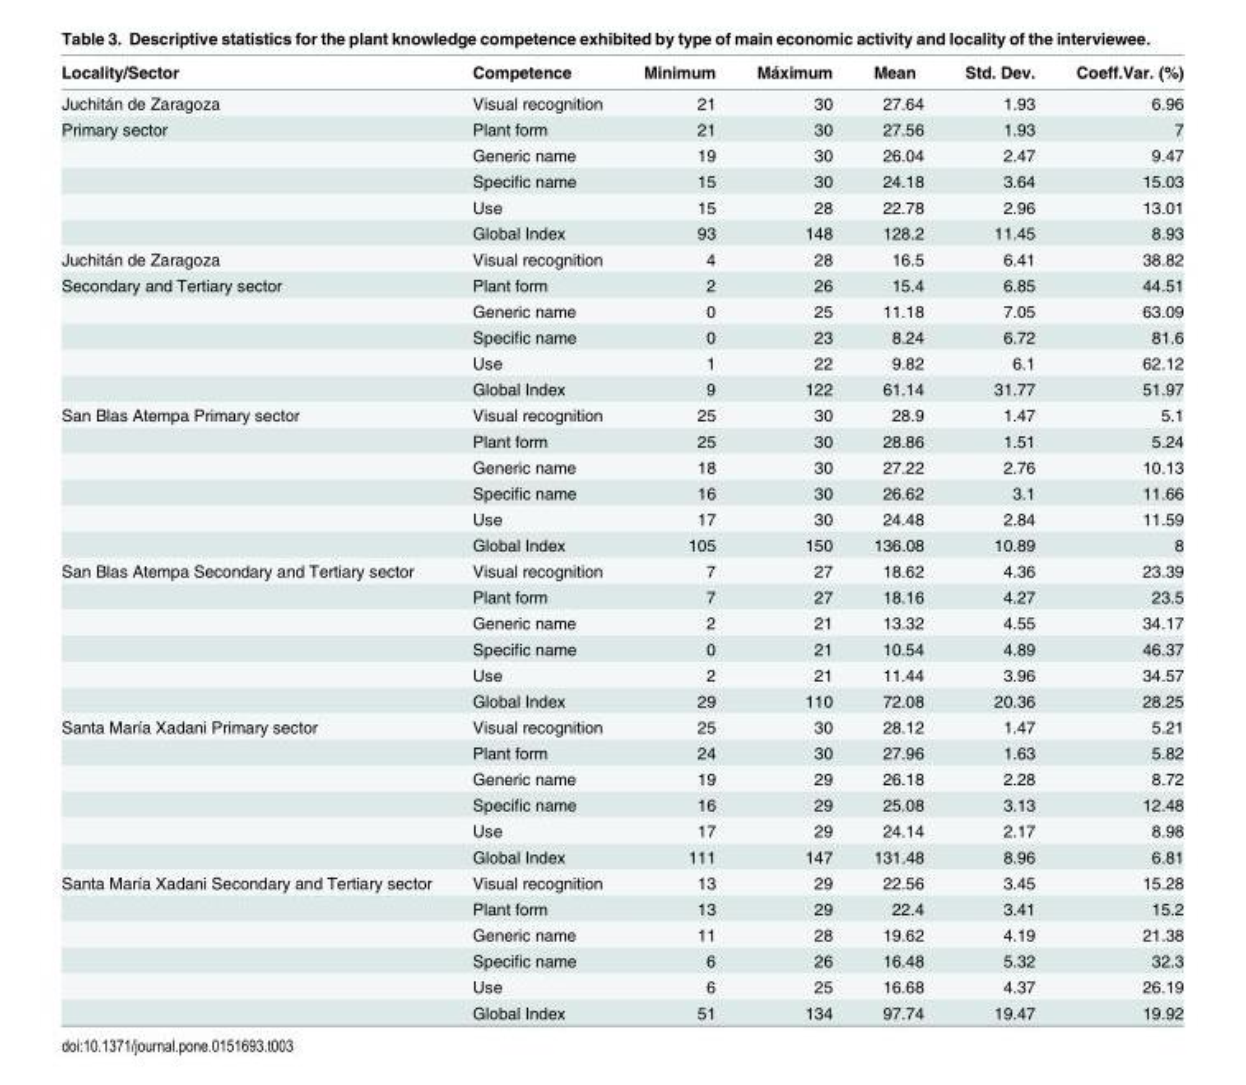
<table><thead><tr><td>Locality/Sector</td><td>Competence</td><td>Minimum</td><td>Máximum</td><td>Mean</td><td>Std. Dev.</td><td>Coeff.Var. (%)</td></tr></thead><tbody><tr><td>Juchitán de Zaragoza</td><td>Visual recognition</td><td>21</td><td>30</td><td>27.64</td><td>1.93</td><td>6.96</td></tr><tr><td rowspan="5">Primary sector</td><td>Plant form</td><td>21</td><td>30</td><td>27.56</td><td>1.93</td><td>7</td></tr><tr><td>Generic name</td><td>19</td><td>30</td><td>26.04</td><td>2.47</td><td>9.47</td></tr><tr><td>Specific name</td><td>15</td><td>30</td><td>24.18</td><td>3.64</td><td>15.03</td></tr><tr><td>Use</td><td>15</td><td>28</td><td>22.78</td><td>2.96</td><td>13.01</td></tr><tr><td>Global Index</td><td>93</td><td>148</td><td>128.2</td><td>11.45</td><td>8.93</td></tr><tr><td>Juchitán de Zaragoza</td><td>Visual recognition</td><td>4</td><td>28</td><td>16.5</td><td>6.41</td><td>38.82</td></tr><tr><td rowspan="5">Secondary and Tertiary sector</td><td>Plant form</td><td>2</td><td>26</td><td>15.4</td><td>6.85</td><td>44.51</td></tr><tr><td>Generic name</td><td>0</td><td>25</td><td>11.18</td><td>7.05</td><td>63.09</td></tr><tr><td>Specific name</td><td>0</td><td>23</td><td>8.24</td><td>6.72</td><td>81.6</td></tr><tr><td>Use</td><td>1</td><td>22</td><td>9.82</td><td>6.1</td><td>62.12</td></tr><tr><td>Global Index</td><td>9</td><td>122</td><td>61.14</td><td>31.77</td><td>51.97</td></tr><tr><td rowspan="6">San Blas Atempa Primary sector</td><td>Visual recognition</td><td>25</td><td>30</td><td>28.9</td><td>1.47</td><td>5.1</td></tr><tr><td>Plant form</td><td>25</td><td>30</td><td>28.86</td><td>1.51</td><td>5.24</td></tr><tr><td>Generic name</td><td>18</td><td>30</td><td>27.22</td><td>2.76</td><td>10.13</td></tr><tr><td>Specific name</td><td>16</td><td>30</td><td>26.62</td><td>3.1</td><td>11.66</td></tr><tr><td>Use</td><td>17</td><td>30</td><td>24.48</td><td>2.84</td><td>11.59</td></tr><tr><td>Global Index</td><td>105</td><td>150</td><td>136.08</td><td>10.89</td><td>8</td></tr><tr><td rowspan="6">San Blas Atempa Secondary and Tertiary sector</td><td>Visual recognition</td><td>7</td><td>27</td><td>18.62</td><td>4.36</td><td>23.39</td></tr><tr><td>Plant form</td><td>7</td><td>27</td><td>18.16</td><td>4.27</td><td>23.5</td></tr><tr><td>Generic name</td><td>2</td><td>21</td><td>13.32</td><td>4.55</td><td>34.17</td></tr><tr><td>Specific name</td><td>0</td><td>21</td><td>10.54</td><td>4.89</td><td>46.37</td></tr><tr><td>Use</td><td>2</td><td>21</td><td>11.44</td><td>3.96</td><td>34.57</td></tr><tr><td>Global Index</td><td>29</td><td>110</td><td>72.08</td><td>20.36</td><td>28.25</td></tr><tr><td rowspan="6">Santa María Xadani Primary sector</td><td>Visual recognition</td><td>25</td><td>30</td><td>28.12</td><td>1.47</td><td>5.21</td></tr><tr><td>Plant form</td><td>24</td><td>30</td><td>27.96</td><td>1.63</td><td>5.82</td></tr><tr><td>Generic name</td><td>19</td><td>29</td><td>26.18</td><td>2.28</td><td>8.72</td></tr><tr><td>Specific name</td><td>16</td><td>29</td><td>25.08</td><td>3.13</td><td>12.48</td></tr><tr><td>Use</td><td>17</td><td>29</td><td>24.14</td><td>2.17</td><td>8.98</td></tr><tr><td>Global Index</td><td>111</td><td>147</td><td>131.48</td><td>8.96</td><td>6.81</td></tr><tr><td rowspan="6">Santa María Xadani Secondary and Tertiary sector</td><td>Visual recognition</td><td>13</td><td>29</td><td>22.56</td><td>3.45</td><td>15.28</td></tr><tr><td>Plant form</td><td>13</td><td>29</td><td>22.4</td><td>3.41</td><td>15.2</td></tr><tr><td>Generic name</td><td>11</td><td>28</td><td>19.62</td><td>4.19</td><td>21.38</td></tr><tr><td>Specific name</td><td>6</td><td>26</td><td>16.48</td><td>5.32</td><td>32.3</td></tr><tr><td>Use</td><td>6</td><td>25</td><td>16.68</td><td>4.37</td><td>26.19</td></tr><tr><td>Global Index</td><td>51</td><td>134</td><td>97.74</td><td>19.47</td><td>19.92</td></tr></tbody></table>